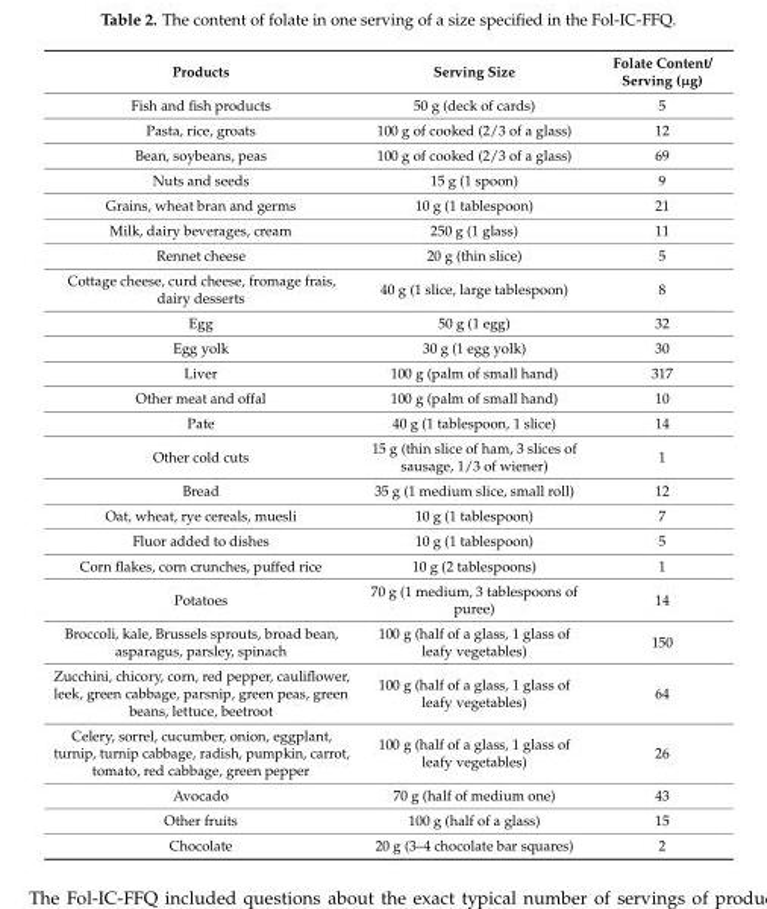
<table><thead><tr><td>Products</td><td>Serving Size</td><td>Folate Content/ Serving (µg)</td></tr></thead><tbody><tr><td>Fish and fish products</td><td>50 g (deck of cards)</td><td>5</td></tr><tr><td>Pasta, rice, groats</td><td>100 g of cooked (2/3 of a glass)</td><td>12</td></tr><tr><td>Bean, soybeans, peas</td><td>100 g of cooked (2/3 of a glass)</td><td>69</td></tr><tr><td>Nuts and seeds</td><td>15 g (1 spoon)</td><td>9</td></tr><tr><td>Grains, wheat bran and germs</td><td>10 g (1 tablespoon)</td><td>21</td></tr><tr><td>Milk, dairy beverages, cream</td><td>250 g (1 glass)</td><td>11</td></tr><tr><td>Rennet cheese</td><td>20 g (thin slice)</td><td>5</td></tr><tr><td>Cottage cheese, curd cheese, fromage frais, dairy desserts</td><td>40 g (1 slice, large tablespoon)</td><td>8</td></tr><tr><td>Egg</td><td>50 g (1 egg)</td><td>32</td></tr><tr><td>Egg yolk</td><td>30 g (1 egg yolk)</td><td>30</td></tr><tr><td>Liver</td><td>100 g (palm of small hand)</td><td>317</td></tr><tr><td>Other meat and offal</td><td>100 g (palm of small hand)</td><td>10</td></tr><tr><td>Pate</td><td>40 g (1 tablespoon, 1 slice)</td><td>14</td></tr><tr><td>Other cold cuts</td><td>15 g (thin slice of ham, 3 slices of sausage, 1/3 of wiener)</td><td>1</td></tr><tr><td>Bread</td><td>35 g (1 medium slice, small roll)</td><td>12</td></tr><tr><td>Oat, wheat, rye cereals, muesli</td><td>10 g (1 tablespoon)</td><td>7</td></tr><tr><td>Fluor added to dishes</td><td>10 g (1 tablespoon)</td><td>5</td></tr><tr><td>Corn flakes, corn crunches, puffed rice</td><td>10 g (2 tablespoons)</td><td>1</td></tr><tr><td>Potatoes</td><td>70 g (1 medium, 3 tablespoons of puree)</td><td>14</td></tr><tr><td>Broccoli, kale, Brussels sprouts, broad bean, asparagus, parsley, spinach</td><td>100 g (half of a glass, 1 glass of leafy vegetables)</td><td>150</td></tr><tr><td>Zucchini, chicory, corn, red pepper, cauliflower, leek, green cabbage, parsnip, green peas, green beans, lettuce, beetroot</td><td>100 g (half of a glass, 1 glass of leafy vegetables)</td><td>64</td></tr><tr><td>Celery, sorrel, cucumber, onion, eggplant, turnip, turnip cabbage, radish, pumpkin, carrot, tomato, red cabbage, green pepper</td><td>100 g (half of a glass, 1 glass of leafy vegetables)</td><td>26</td></tr><tr><td>Avocado</td><td>70 g (half of medium one)</td><td>43</td></tr><tr><td>Other fruits</td><td>100 g (half of a glass)</td><td>15</td></tr><tr><td>Chocolate</td><td>20 g (3–4 chocolate bar squares)</td><td>2</td></tr></tbody></table>